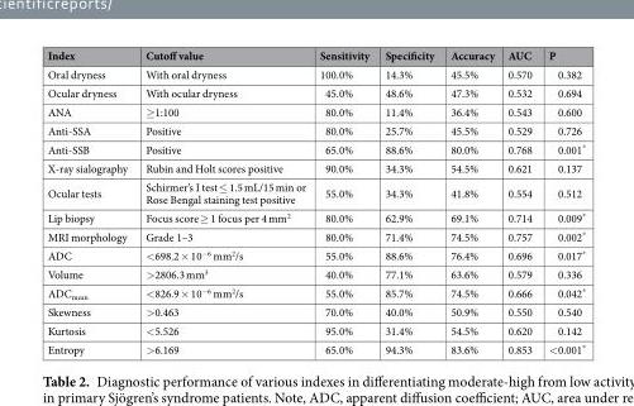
<table><thead><tr><td>Index</td><td>Cutoff value</td><td>Sensitivity</td><td>Specificity</td><td>Accuracy</td><td>AUC</td><td>P</td></tr></thead><tbody><tr><td>Oral dryness</td><td>With oral dryness</td><td>100.0%</td><td>14.3%</td><td>45.5%</td><td>0.570</td><td>0.382</td></tr><tr><td>Ocular dryness</td><td>With ocular dryness</td><td>45.0%</td><td>48.6%</td><td>47.3%</td><td>0.532</td><td>0.694</td></tr><tr><td>ANA</td><td>≥1:100</td><td>80.0%</td><td>11.4%</td><td>36.4%</td><td>0.543</td><td>0.600</td></tr><tr><td>Anti-SSA</td><td>Positive</td><td>80.0%</td><td>25.7%</td><td>45.5%</td><td>0.529</td><td>0.726</td></tr><tr><td>Anti-SSB</td><td>Positive</td><td>65.0%</td><td>88.6%</td><td>80.0%</td><td>0.768</td><td>0.001*</td></tr><tr><td>X-ray sialography</td><td>Rubin and Holt scores positive</td><td>90.0%</td><td>34.3%</td><td>54.5%</td><td>0.621</td><td>0.137</td></tr><tr><td>Ocular tests</td><td>Schirmer’s I test ≤ 1.5 mL/15 min or Rose Bengal staining test positive</td><td>55.0%</td><td>34.3%</td><td>41.8%</td><td>0.554</td><td>0.512</td></tr><tr><td>Lip biopsy</td><td>Focus score ≥ 1 focus per 4 mm<sup>2</sup></td><td>80.0%</td><td>62.9%</td><td>69.1%</td><td>0.714</td><td>0.009*</td></tr><tr><td>MRI morphology</td><td>Grade 1–3</td><td>80.0%</td><td>71.4%</td><td>74.5%</td><td>0.757</td><td>0.002*</td></tr><tr><td>ADC</td><td>&lt;698.2 × 10<sup>−6</sup> mm<sup>2</sup>/s</td><td>55.0%</td><td>88.6%</td><td>76.4%</td><td>0.696</td><td>0.017*</td></tr><tr><td>Volume</td><td>&gt;2806.3 mm<sup>3</sup></td><td>40.0%</td><td>77.1%</td><td>63.6%</td><td>0.579</td><td>0.336</td></tr><tr><td>ADC<sub>mean</sub></td><td>&lt;826.9 × 10<sup>−6</sup> mm<sup>2</sup>/s</td><td>55.0%</td><td>85.7%</td><td>74.5%</td><td>0.666</td><td>0.042*</td></tr><tr><td>Skewness</td><td>&gt;0.463</td><td>70.0%</td><td>40.0%</td><td>50.9%</td><td>0.550</td><td>0.540</td></tr><tr><td>Kurtosis</td><td>&lt;5.526</td><td>95.0%</td><td>31.4%</td><td>54.5%</td><td>0.620</td><td>0.142</td></tr><tr><td>Entropy</td><td>&gt;6.169</td><td>65.0%</td><td>94.3%</td><td>83.6%</td><td>0.853</td><td>&lt;0.001*</td></tr></tbody></table>